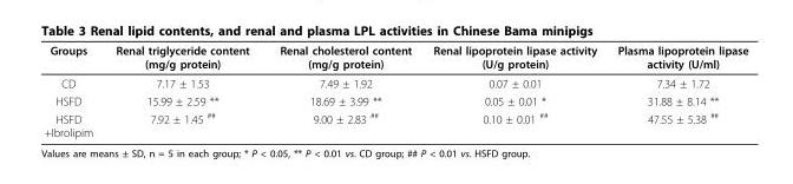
<table><thead><tr><td>Groups</td><td>Renal triglyceride content (mg/g protein)</td><td>Renal cholesterol content (mg/g protein)</td><td>Renal lipoprotein lipase activity (U/g protein)</td><td>Plasma lipoprotein lipase activity (U/ml)</td></tr></thead><tbody><tr><td>CD</td><td>7.17 ± 1.53</td><td>7.49 ± 1.92</td><td>0.07 ± 0.01</td><td>7.34 ± 1.72</td></tr><tr><td>HSFD</td><td>15.99 ± 2.59 **</td><td>18.69 ± 3.99 **</td><td>0.05 ± 0.01 *</td><td>31.88 ± 8.14 **</td></tr><tr><td>HSFD +Ibrolipim</td><td>7.92 ± 1.45 <sup>##</sup></td><td>9.00 ± 2.83 <sup>##</sup></td><td>0.10 ± 0.01 <sup>##</sup></td><td>47.55 ± 5.38 <sup>##</sup></td></tr></tbody></table>